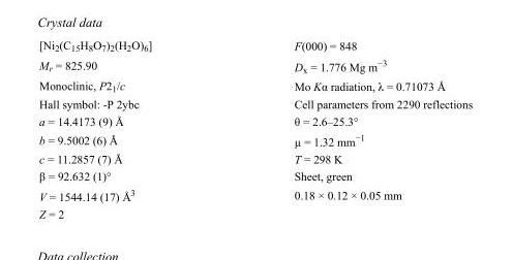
<table><tbody><tr><td>[Ni<sub>2</sub>(C<sub>15</sub>H<sub>8</sub>O<sub>7</sub>)<sub>2</sub>(H<sub>2</sub>O)<sub>6</sub>]</td><td>F(000) = 848</td></tr><tr><td>M<sub>r</sub> = 825.90</td><td>D<sub>x</sub> = 1.776 Mg m<sup>−3</sup></td></tr><tr><td>Monoclinic, P2<sub>1</sub>/c</td><td>Mo Kα radiation, λ = 0.71073 Å</td></tr><tr><td>Hall symbol: -P 2ybc</td><td>Cell parameters from 2290 reflections</td></tr><tr><td>a = 14.4173 (9) Å</td><td>θ = 2.6–25.3°</td></tr><tr><td>b = 9.5002 (6) Å</td><td>µ = 1.32 mm<sup>−1</sup></td></tr><tr><td>c = 11.2857 (7) Å</td><td>T = 298 K</td></tr><tr><td>β = 92.632 (1)°</td><td>Sheet, green</td></tr><tr><td>V = 1544.14 (17) Å<sup>3</sup></td><td>0.18 × 0.12 × 0.05 mm</td></tr><tr><td>Z = 2</td><td></td></tr></tbody></table>